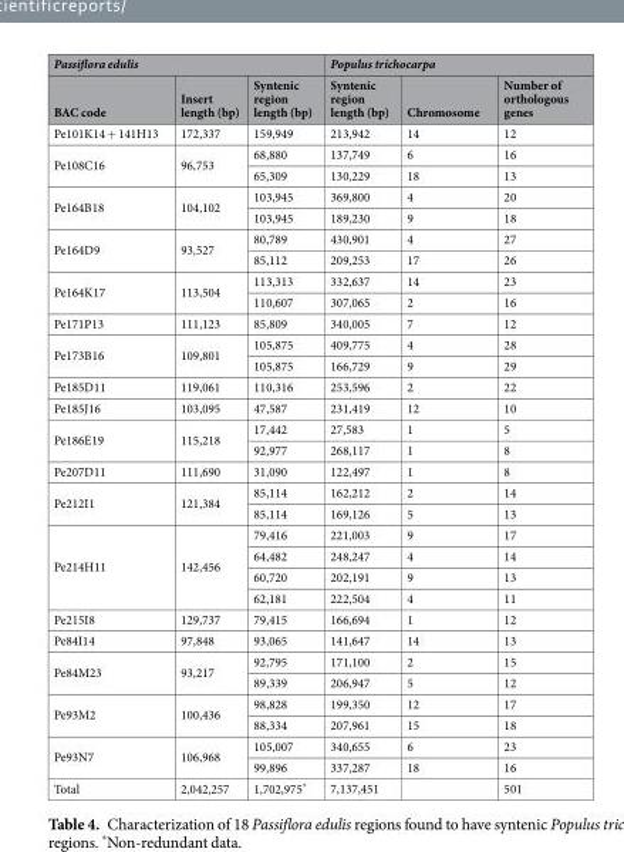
<table><thead><tr><td colspan="3">Passiflora edulis</td><td colspan="3">Populus trichocarpa</td></tr><tr><td>BAC code</td><td>Insert length (bp)</td><td>Syntenic region length (bp)</td><td>Syntenic region length (bp)</td><td>Chromosome</td><td>Number of orthologous genes</td></tr></thead><tbody><tr><td>Pe101K14 + 141H13</td><td>172,337</td><td>159,949</td><td>213,942</td><td>14</td><td>12</td></tr><tr><td rowspan="2">Pe108C16</td><td rowspan="2">96,753</td><td>68,880</td><td>137,749</td><td>6</td><td>16</td></tr><tr><td>65,309</td><td>130,229</td><td>18</td><td>13</td></tr><tr><td rowspan="2">Pe164B18</td><td rowspan="2">104,102</td><td>103,945</td><td>369,800</td><td>4</td><td>20</td></tr><tr><td>103,945</td><td>189,230</td><td>9</td><td>18</td></tr><tr><td rowspan="2">Pe164D9</td><td rowspan="2">93,527</td><td>80,789</td><td>430,901</td><td>4</td><td>27</td></tr><tr><td>85,112</td><td>209,253</td><td>17</td><td>26</td></tr><tr><td rowspan="2">Pe164K17</td><td rowspan="2">113,504</td><td>113,313</td><td>332,637</td><td>14</td><td>23</td></tr><tr><td>110,607</td><td>307,065</td><td>2</td><td>16</td></tr><tr><td>Pe171P13</td><td>111,123</td><td>85,809</td><td>340,005</td><td>7</td><td>12</td></tr><tr><td rowspan="2">Pe173B16</td><td rowspan="2">109,801</td><td>105,875</td><td>409,775</td><td>4</td><td>28</td></tr><tr><td>105,875</td><td>166,729</td><td>9</td><td>29</td></tr><tr><td>Pe185D11</td><td>119,061</td><td>110,316</td><td>253,596</td><td>2</td><td>22</td></tr><tr><td>Pe185J16</td><td>103,095</td><td>47,587</td><td>231,419</td><td>12</td><td>10</td></tr><tr><td rowspan="2">Pe186E19</td><td rowspan="2">115,218</td><td>17,442</td><td>27,583</td><td>1</td><td>5</td></tr><tr><td>92,977</td><td>268,117</td><td>1</td><td>8</td></tr><tr><td>Pe207D11</td><td>111,690</td><td>31,090</td><td>122,497</td><td>1</td><td>8</td></tr><tr><td rowspan="2">Pe212I1</td><td rowspan="2">121,384</td><td>85,114</td><td>162,212</td><td>2</td><td>14</td></tr><tr><td>85,114</td><td>169,126</td><td>5</td><td>13</td></tr><tr><td rowspan="4">Pe214H11</td><td rowspan="4">142,456</td><td>79,416</td><td>221,003</td><td>9</td><td>17</td></tr><tr><td>64,482</td><td>248,247</td><td>4</td><td>14</td></tr><tr><td>60,720</td><td>202,191</td><td>9</td><td>13</td></tr><tr><td>62,181</td><td>222,504</td><td>4</td><td>11</td></tr><tr><td>Pe215I8</td><td>129,737</td><td>79,415</td><td>166,694</td><td>1</td><td>12</td></tr><tr><td>Pe84I14</td><td>97,848</td><td>93,065</td><td>141,647</td><td>14</td><td>13</td></tr><tr><td rowspan="2">Pe84M23</td><td rowspan="2">93,217</td><td>92,795</td><td>171,100</td><td>2</td><td>15</td></tr><tr><td>89,339</td><td>206,947</td><td>5</td><td>12</td></tr><tr><td rowspan="2">Pe93M2</td><td rowspan="2">100,436</td><td>98,828</td><td>199,350</td><td>12</td><td>17</td></tr><tr><td>88,334</td><td>207,961</td><td>15</td><td>18</td></tr><tr><td rowspan="2">Pe93N7</td><td rowspan="2">106,968</td><td>105,007</td><td>340,655</td><td>6</td><td>23</td></tr><tr><td>99,896</td><td>337,287</td><td>18</td><td>16</td></tr><tr><td>Total</td><td>2,042,257</td><td>1,702,975*</td><td>7,137,451</td><td></td><td>501</td></tr></tbody></table>